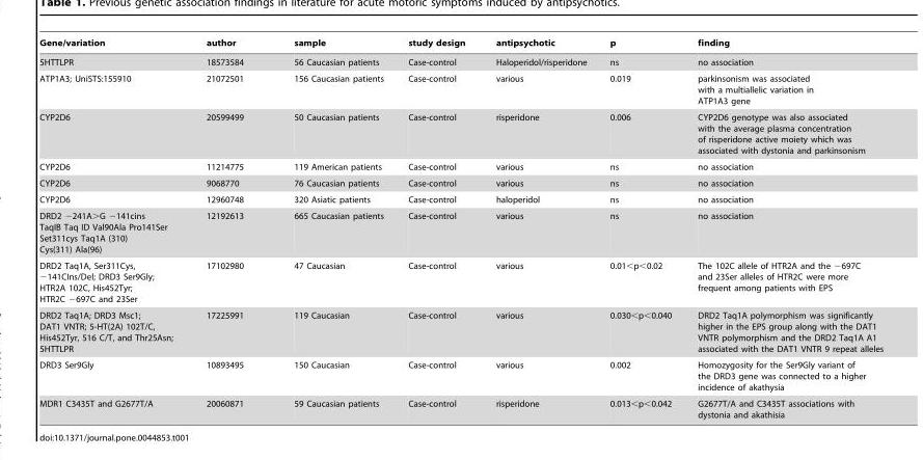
<table><thead><tr><td>Gene/variation</td><td>author</td><td>sample</td><td>study design</td><td>antipsychotic</td><td>p</td><td>finding</td></tr></thead><tbody><tr><td>5HTTLPR</td><td>18573584</td><td>56 Caucasian patients</td><td>Case-control</td><td>Haloperidol/risperidone</td><td>ns</td><td>no association</td></tr><tr><td>ATP1A3; UniSTS:155910</td><td>21072501</td><td>156 Caucasian patients</td><td>Case-control</td><td>various</td><td>0.019</td><td>parkinsonism was associated with a multiallelic variation in ATP1A3 gene</td></tr><tr><td>CYP2D6</td><td>20599499</td><td>50 Caucasian patients</td><td>Case-control</td><td>risperidone</td><td>0.006</td><td>CYP2D6 genotype was also associated with the average plasma concentration of risperidone active moiety which was associated with dystonia and parkinsonism</td></tr><tr><td>CYP2D6</td><td>11214775</td><td>119 American patients</td><td>Case-control</td><td>various</td><td>ns</td><td>no association</td></tr><tr><td>CYP2D6</td><td>9068770</td><td>76 Caucasian patients</td><td>Case-control</td><td>various</td><td>ns</td><td>no association</td></tr><tr><td>CYP2D6</td><td>12960748</td><td>320 Asiatic patients</td><td>Case-control</td><td>haloperidol</td><td>ns</td><td>no association</td></tr><tr><td>DRD2 −241A&gt;G −141cins TaqIB Taq ID Val90Ala Pro141Ser Set311cys Taq1A (310) Cys(311) Ala(96)</td><td>12192613</td><td>665 Caucasian patients</td><td>Case-control</td><td>various</td><td>ns</td><td>no association</td></tr><tr><td>DRD2 Taq1A, Ser311Cys, −141CIns/Del; DRD3 Ser9Gly; HTR2A 102C, His452Tyr; HTR2C −697C and 23Ser</td><td>17102980</td><td>47 Caucasian</td><td>Case-control</td><td>various</td><td>0.01&lt;p&lt;0.02</td><td>The 102C allele of HTR2A and the −697C and 23Ser alleles of HTR2C were more frequent among patients with EPS</td></tr><tr><td>DRD2 Taq1A; DRD3 Msc1; DAT1 VNTR; 5-HT(2A) 102T/C, His452Tyr, 516 C/T, and Thr25Asn; 5HTTLPR</td><td>17225991</td><td>119 Caucasian</td><td>Case-control</td><td>various</td><td>0.030&lt;p&lt;0.040</td><td>DRD2 Taq1A polymorphism was significantly higher in the EPS group along with the DAT1 VNTR polymorphism and the DRD2 Taq1A A1 associated with the DAT1 VNTR 9 repeat alleles</td></tr><tr><td>DRD3 Ser9Gly</td><td>10893495</td><td>150 Caucasian</td><td>Case-control</td><td>various</td><td>0.002</td><td>Homozygosity for the Ser9Gly variant of the DRD3 gene was connected to a higher incidence of akathysia</td></tr><tr><td>MDR1 C3435T and G2677T/A</td><td>20060871</td><td>59 Caucasian patients</td><td>Case-control</td><td>risperidone</td><td>0.013&lt;p&lt;0.042</td><td>G2677T/A and C3435T associations with dystonia and akathisia</td></tr></tbody></table>